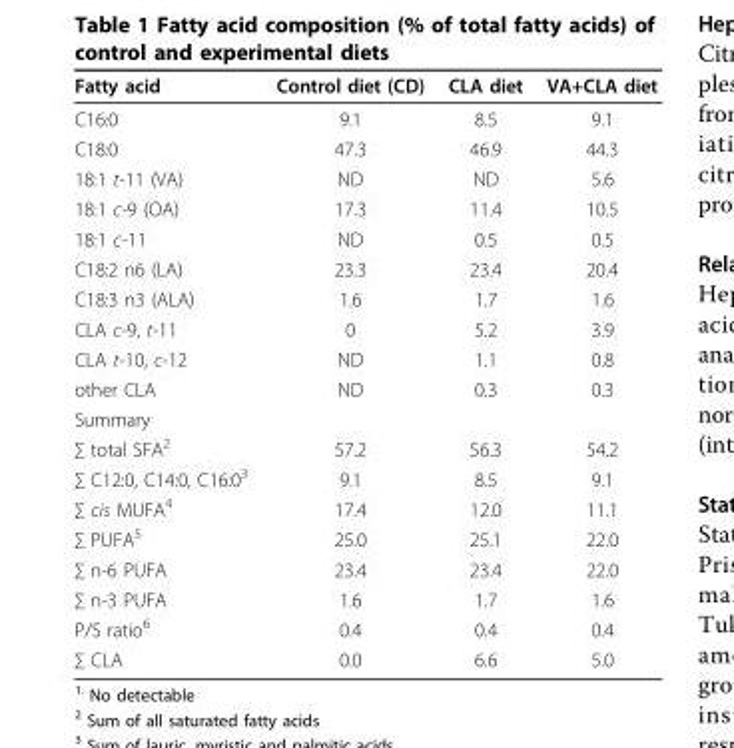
<table><thead><tr><td>Fatty acid</td><td>Control diet (CD)</td><td>CLA diet</td><td>VA+CLA diet</td></tr></thead><tbody><tr><td>C16:0</td><td>9.1</td><td>8.5</td><td>9.1</td></tr><tr><td>C18:0</td><td>47.3</td><td>46.9</td><td>44.3</td></tr><tr><td>18:1 t-11 (VA)</td><td>ND</td><td>ND</td><td>5.6</td></tr><tr><td>18:1 c-9 (OA)</td><td>17.3</td><td>11.4</td><td>10.5</td></tr><tr><td>18:1 c-11</td><td>ND</td><td>0.5</td><td>0.5</td></tr><tr><td>C18:2 n6 (LA)</td><td>23.3</td><td>23.4</td><td>20.4</td></tr><tr><td>C18:3 n3 (ALA)</td><td>1.6</td><td>1.7</td><td>1.6</td></tr><tr><td>CLA c-9, t-11</td><td>0</td><td>5.2</td><td>3.9</td></tr><tr><td>CLA t-10, c-12</td><td>ND</td><td>1.1</td><td>0.8</td></tr><tr><td>other CLA</td><td>ND</td><td>0.3</td><td>0.3</td></tr><tr><td colspan="4">Summary</td></tr><tr><td>∑ total SFA<sup>2</sup></td><td>57.2</td><td>56.3</td><td>54.2</td></tr><tr><td>∑ C12:0, C14:0, C16:0<sup>3</sup></td><td>9.1</td><td>8.5</td><td>9.1</td></tr><tr><td>∑ cis MUFA<sup>4</sup></td><td>17.4</td><td>12.0</td><td>11.1</td></tr><tr><td>∑ PUFA<sup>5</sup></td><td>25.0</td><td>25.1</td><td>22.0</td></tr><tr><td>∑ n-6 PUFA</td><td>23.4</td><td>23.4</td><td>22.0</td></tr><tr><td>∑ n-3 PUFA</td><td>1.6</td><td>1.7</td><td>1.6</td></tr><tr><td>P/S ratio<sup>6</sup></td><td>0.4</td><td>0.4</td><td>0.4</td></tr><tr><td>∑ CLA</td><td>0.0</td><td>6.6</td><td>5.0</td></tr></tbody></table>